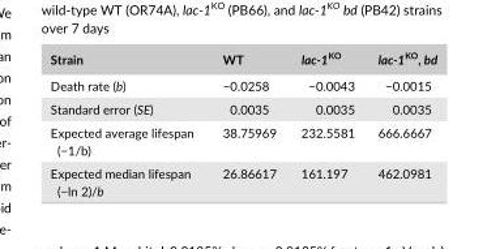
<table><thead><tr><td>Strain</td><td>WT</td><td>lac-1<sup>KO</sup></td><td>lac-1<sup>KO</sup>, bd</td></tr></thead><tbody><tr><td>Death rate (b)</td><td>−0.0258</td><td>−0.0043</td><td>−0.0015</td></tr><tr><td>Standard error (SE)</td><td>0.0035</td><td>0.0035</td><td>0.0035</td></tr><tr><td>Expected average lifespan (−1/b)</td><td>38.75969</td><td>232.5581</td><td>666.6667</td></tr><tr><td>Expected median lifespan (−ln 2)/b</td><td>26.86617</td><td>161.197</td><td>462.0981</td></tr></tbody></table>